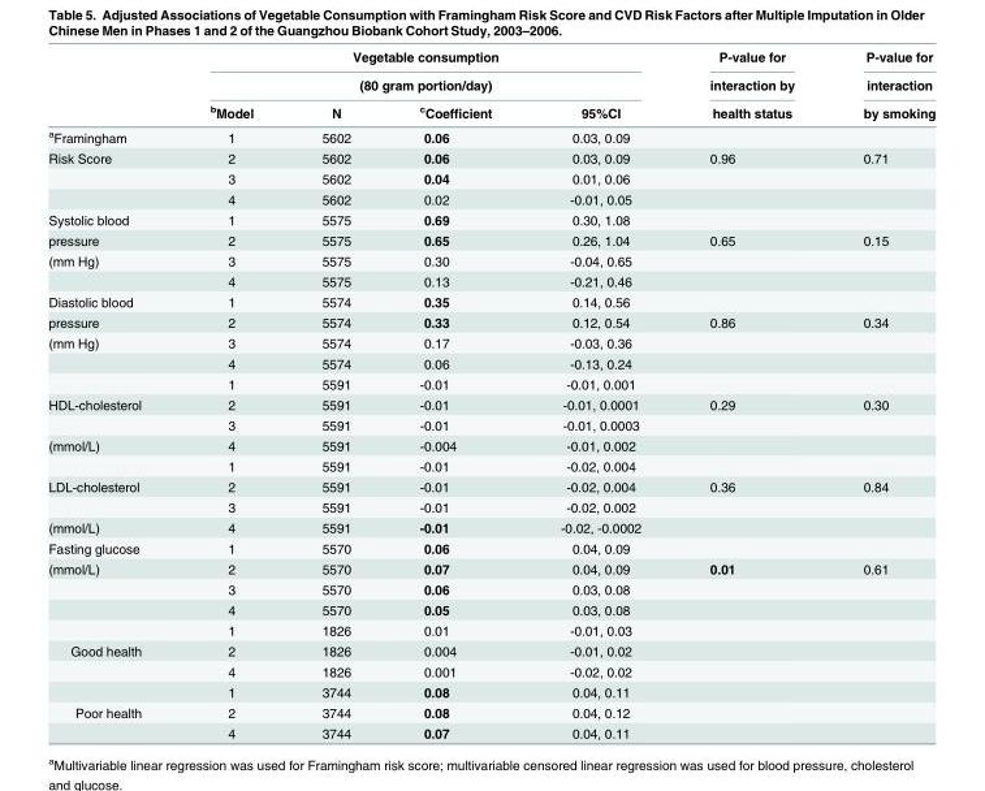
<table><thead><tr><td rowspan="3"></td><td rowspan="2" colspan="4">Vegetable consumption (80 gram portion/day)</td><td rowspan="3">P-value for interaction by health status</td><td rowspan="3">P-value for interaction by smoking</td></tr><tr></tr><tr><td><sup>b</sup>Model</td><td>N</td><td><sup>c</sup>Coefficient</td><td>95%CI</td></tr></thead><tbody><tr><td><sup>a</sup>Framingham</td><td>1</td><td>5602</td><td>0.06</td><td>0.03, 0.09</td><td></td><td></td></tr><tr><td rowspan="3">Risk Score</td><td>2</td><td>5602</td><td>0.06</td><td>0.03, 0.09</td><td>0.96</td><td>0.71</td></tr><tr><td>3</td><td>5602</td><td>0.04</td><td>0.01, 0.06</td><td></td><td></td></tr><tr><td>4</td><td>5602</td><td>0.02</td><td>-0.01, 0.05</td><td></td><td></td></tr><tr><td>Systolic blood</td><td>1</td><td>5575</td><td>0.69</td><td>0.30, 1.08</td><td></td><td></td></tr><tr><td>pressure</td><td>2</td><td>5575</td><td>0.65</td><td>0.26, 1.04</td><td>0.65</td><td>0.15</td></tr><tr><td rowspan="2">(mm Hg)</td><td>3</td><td>5575</td><td>0.30</td><td>-0.04, 0.65</td><td></td><td></td></tr><tr><td>4</td><td>5575</td><td>0.13</td><td>-0.21, 0.46</td><td></td><td></td></tr><tr><td>Diastolic blood</td><td>1</td><td>5574</td><td>0.35</td><td>0.14, 0.56</td><td></td><td></td></tr><tr><td>pressure</td><td>2</td><td>5574</td><td>0.33</td><td>0.12, 0.54</td><td>0.86</td><td>0.34</td></tr><tr><td rowspan="3">(mm Hg)</td><td>3</td><td>5574</td><td>0.17</td><td>-0.03, 0.36</td><td></td><td></td></tr><tr><td>4</td><td>5574</td><td>0.06</td><td>-0.13, 0.24</td><td></td><td></td></tr><tr><td>1</td><td>5591</td><td>-0.01</td><td>-0.01, 0.001</td><td></td><td></td></tr><tr><td rowspan="2">HDL-cholesterol</td><td>2</td><td>5591</td><td>-0.01</td><td>-0.01, 0.0001</td><td>0.29</td><td>0.30</td></tr><tr><td>3</td><td>5591</td><td>-0.01</td><td>-0.01, 0.0003</td><td></td><td></td></tr><tr><td rowspan="2">(mmol/L)</td><td>4</td><td>5591</td><td>-0.004</td><td>-0.01, 0.002</td><td></td><td></td></tr><tr><td>1</td><td>5591</td><td>-0.01</td><td>-0.02, 0.004</td><td></td><td></td></tr><tr><td rowspan="2">LDL-cholesterol</td><td>2</td><td>5591</td><td>-0.01</td><td>-0.02, 0.004</td><td>0.36</td><td>0.84</td></tr><tr><td>3</td><td>5591</td><td>-0.01</td><td>-0.02, 0.002</td><td></td><td></td></tr><tr><td>(mmol/L)</td><td>4</td><td>5591</td><td>-0.01</td><td>-0.02, -0.0002</td><td></td><td></td></tr><tr><td>Fasting glucose</td><td>1</td><td>5570</td><td>0.06</td><td>0.04, 0.09</td><td></td><td></td></tr><tr><td rowspan="4">(mmol/L)</td><td>2</td><td>5570</td><td>0.07</td><td>0.04, 0.09</td><td>0.01</td><td>0.61</td></tr><tr><td>3</td><td>5570</td><td>0.06</td><td>0.03, 0.08</td><td></td><td></td></tr><tr><td>4</td><td>5570</td><td>0.05</td><td>0.03, 0.08</td><td></td><td></td></tr><tr><td>1</td><td>1826</td><td>0.01</td><td>-0.01, 0.03</td><td></td><td></td></tr><tr><td rowspan="3">Good health</td><td>2</td><td>1826</td><td>0.004</td><td>-0.01, 0.02</td><td></td><td></td></tr><tr><td>4</td><td>1826</td><td>0.001</td><td>-0.02, 0.02</td><td></td><td></td></tr><tr><td>1</td><td>3744</td><td>0.08</td><td>0.04, 0.11</td><td></td><td></td></tr><tr><td rowspan="2">Poor health</td><td>2</td><td>3744</td><td>0.08</td><td>0.04, 0.12</td><td></td><td></td></tr><tr><td>4</td><td>3744</td><td>0.07</td><td>0.04, 0.11</td><td></td><td></td></tr></tbody></table>